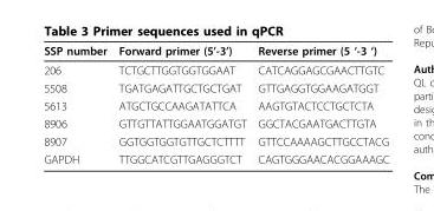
<table><thead><tr><td>SSP number</td><td>Forward primer (5’-3’)</td><td>Reverse primer (5 ‘-3 ‘)</td></tr></thead><tbody><tr><td>206</td><td>TCTGCTTGGTGGTGGAAT</td><td>CATCAGGAGCGAACTTGTC</td></tr><tr><td>5508</td><td>TGATGAGATTGCTGCTGAT</td><td>GTTGAGGTGGAAGATGGT</td></tr><tr><td>5613</td><td>ATGCTGCCAAGATATTCA</td><td>AAGTGTACTCCTGCTCTA</td></tr><tr><td>8906</td><td>GTTGTTATTGGAATGGATGT</td><td>GGCTACGAATGACTTGTA</td></tr><tr><td>8907</td><td>GGTGGTGGTGTTGCTCTTTT</td><td>GTTCCAAAAGCTTGCCTACG</td></tr><tr><td>GAPDH</td><td>TTGGCATCGTTGAGGGTCT</td><td>CAGTGGGAACACGGAAAGC</td></tr></tbody></table>